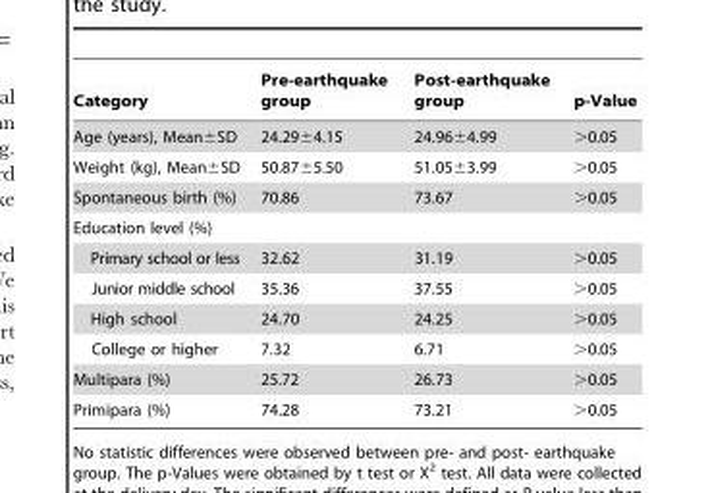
<table><thead><tr><td>Category</td><td>Pre-earthquake group</td><td>Post-earthquake group</td><td>p-Value</td></tr></thead><tbody><tr><td>Age (years), Mean±SD</td><td>24.29±4.15</td><td>24.96±4.99</td><td>&gt;0.05</td></tr><tr><td>Weight (kg), Mean±SD</td><td>50.87±5.50</td><td>51.05±3.99</td><td>&gt;0.05</td></tr><tr><td>Spontaneous birth (%)</td><td>70.86</td><td>73.67</td><td>&gt;0.05</td></tr><tr><td colspan="4">Education level (%)</td></tr><tr><td>Primary school or less</td><td>32.62</td><td>31.19</td><td>&gt;0.05</td></tr><tr><td>Junior middle school</td><td>35.36</td><td>37.55</td><td>&gt;0.05</td></tr><tr><td>High school</td><td>24.70</td><td>24.25</td><td>&gt;0.05</td></tr><tr><td>College or higher</td><td>7.32</td><td>6.71</td><td>&gt;0.05</td></tr><tr><td>Multipara (%)</td><td>25.72</td><td>26.73</td><td>&gt;0.05</td></tr><tr><td>Primipara (%)</td><td>74.28</td><td>73.21</td><td>&gt;0.05</td></tr></tbody></table>